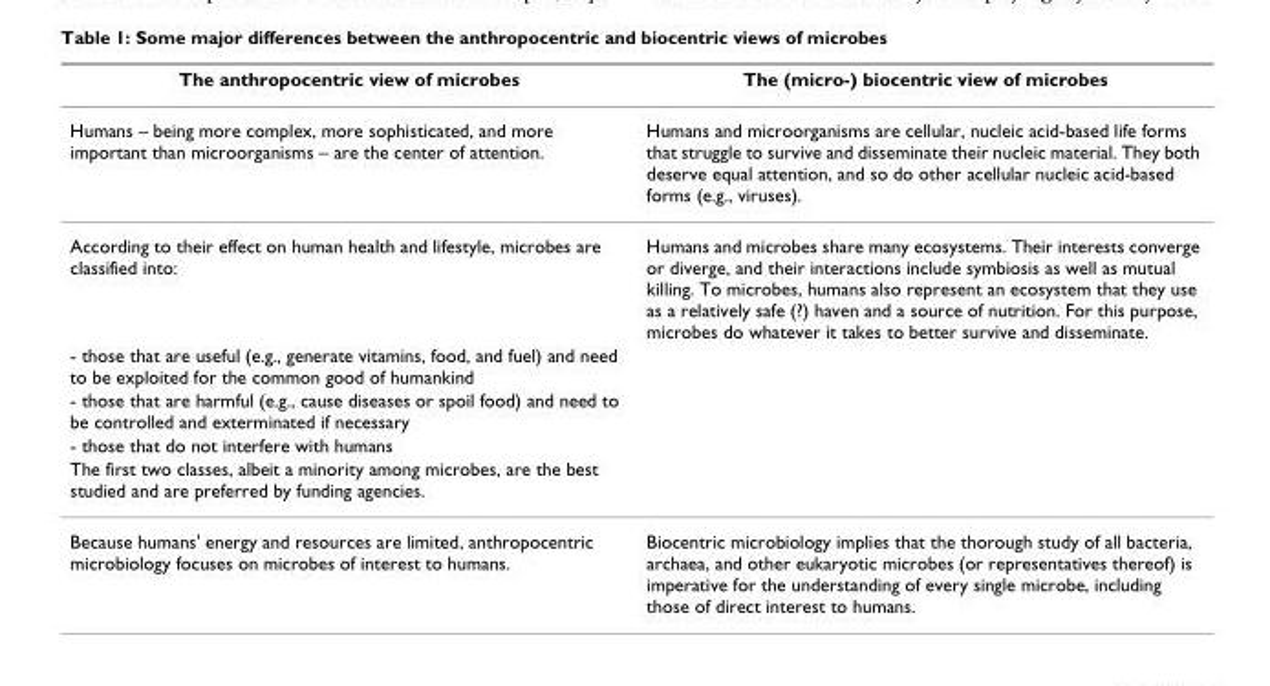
<table><thead><tr><td>The anthropocentric view of microbes</td><td>The (micro-) biocentric view of microbes</td></tr></thead><tbody><tr><td>Humans – being more complex, more sophisticated, and more important than microorganisms – are the center of attention.</td><td>Humans and microorganisms are cellular, nucleic acid-based life forms that struggle to survive and disseminate their nucleic material. They both deserve equal attention, and so do other acellular nucleic acid-based forms (e.g., viruses).</td></tr><tr><td>According to their effect on human health and lifestyle, microbes are classified into:</td><td>Humans and microbes share many ecosystems. Their interests converge or diverge, and their interactions include symbiosis as well as mutual killing. To microbes, humans also represent an ecosystem that they use as a relatively safe (?) haven and a source of nutrition. For this purpose, microbes do whatever it takes to better survive and disseminate.</td></tr><tr><td colspan="2">- those that are useful (e.g., generate vitamins, food, and fuel) and need to be exploited for the common good of humankind</td></tr><tr><td colspan="2">- those that are harmful (e.g., cause diseases or spoil food) and need to be controlled and exterminated if necessary</td></tr><tr><td colspan="2">- those that do not interfere with humans</td></tr><tr><td colspan="2">The first two classes, albeit a minority among microbes, are the best studied and are preferred by funding agencies.</td></tr><tr><td>Because humans&#x27; energy and resources are limited, anthropocentric microbiology focuses on microbes of interest to humans.</td><td>Biocentric microbiology implies that the thorough study of all bacteria, archaea, and other eukaryotic microbes (or representatives thereof) is imperative for the understanding of every single microbe, including those of direct interest to humans.</td></tr></tbody></table>